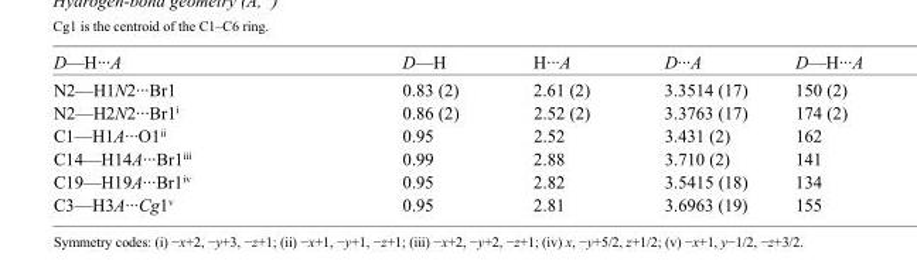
<table><tbody><tr><td>D—H···A</td><td>D—H</td><td>H···A</td><td>D···A</td><td>D—H···A</td></tr><tr><td>N2—H1N2···Br1</td><td>0.83 (2)</td><td>2.61 (2)</td><td>3.3514 (17)</td><td>150 (2)</td></tr><tr><td>N2—H2N2···Br1<sup>i</sup></td><td>0.86 (2)</td><td>2.52 (2)</td><td>3.3763 (17)</td><td>174 (2)</td></tr><tr><td>C1—H1A···O1<sup>ii</sup></td><td>0.95</td><td>2.52</td><td>3.431 (2)</td><td>162</td></tr><tr><td>C14—H14A···Br1<sup>iii</sup></td><td>0.99</td><td>2.88</td><td>3.710 (2)</td><td>141</td></tr><tr><td>C19—H19A···Br1<sup>iv</sup></td><td>0.95</td><td>2.82</td><td>3.5415 (18)</td><td>134</td></tr><tr><td>C3—H3A···Cg1<sup>v</sup></td><td>0.95</td><td>2.81</td><td>3.6963 (19)</td><td>155</td></tr></tbody></table>